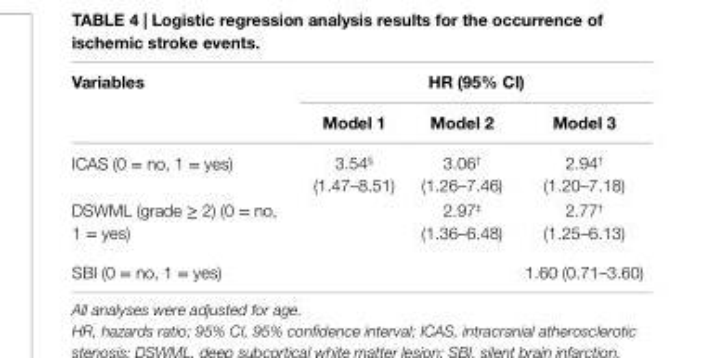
<table><thead><tr><td rowspan="2">Variables</td><td colspan="3">hr (95% ci)</td></tr><tr><td>Model 1</td><td>Model 2</td><td>Model 3</td></tr></thead><tbody><tr><td>ICAS (0 = no, 1 = yes)</td><td>3.54<sup>§</sup> (1.47–8.51)</td><td>3.06<sup>†</sup> (1.26–7.46)</td><td>2.94<sup>†</sup> (1.20–7.18)</td></tr><tr><td>DSWML (grade ≥ 2) (0 = no, 1 = yes)</td><td></td><td>2.97<sup>‡</sup> (1.36–6.48)</td><td>2.77<sup>†</sup> (1.25–6.13)</td></tr><tr><td>SBI (0 = no, 1 = yes)</td><td colspan="2"></td><td>1.60 (0.71–3.60)</td></tr></tbody></table>